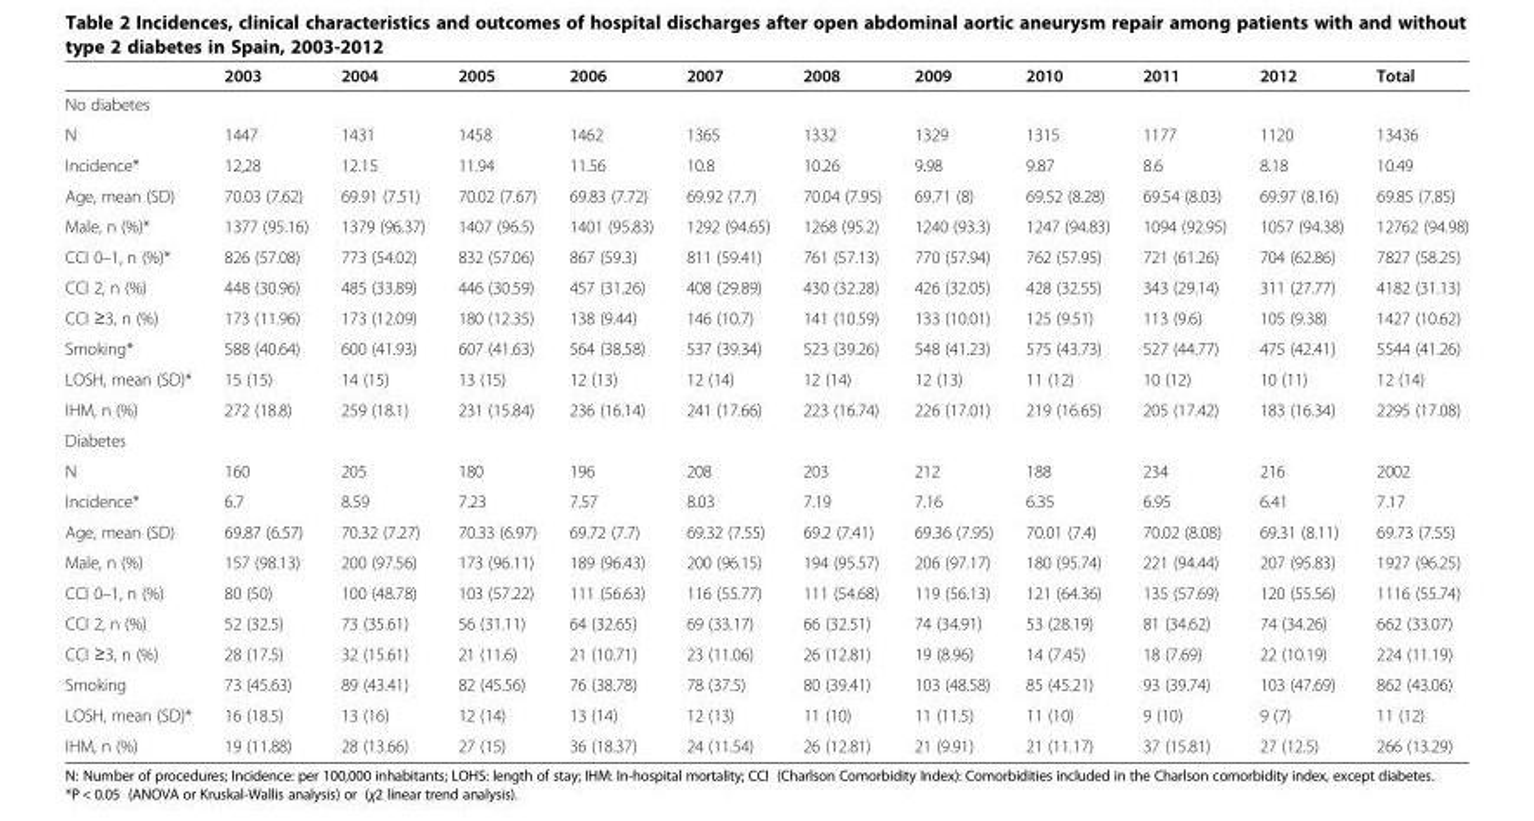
<table><thead><tr><td></td><td>2003</td><td>2004</td><td>2005</td><td>2006</td><td>2007</td><td>2008</td><td>2009</td><td>2010</td><td>2011</td><td>2012</td><td>Total</td></tr></thead><tbody><tr><td colspan="12">No diabetes</td></tr><tr><td>N</td><td>1447</td><td>1431</td><td>1458</td><td>1462</td><td>1365</td><td>1332</td><td>1329</td><td>1315</td><td>1177</td><td>1120</td><td>13436</td></tr><tr><td>Incidence*</td><td>12,28</td><td>12.15</td><td>11.94</td><td>11.56</td><td>10.8</td><td>10.26</td><td>9.98</td><td>9.87</td><td>8.6</td><td>8.18</td><td>10.49</td></tr><tr><td>Age, mean (SD)</td><td>70.03 (7.62)</td><td>69.91 (7.51)</td><td>70.02 (7.67)</td><td>69.83 (7.72)</td><td>69.92 (7.7)</td><td>70.04 (7.95)</td><td>69.71 (8)</td><td>69.52 (8.28)</td><td>69.54 (8.03)</td><td>69.97 (8.16)</td><td>69.85 (7.85)</td></tr><tr><td>Male, n (%)*</td><td>1377 (95.16)</td><td>1379 (96.37)</td><td>1407 (96.5)</td><td>1401 (95.83)</td><td>1292 (94.65)</td><td>1268 (95.2)</td><td>1240 (93.3)</td><td>1247 (94.83)</td><td>1094 (92.95)</td><td>1057 (94.38)</td><td>12762 (94.98)</td></tr><tr><td>CCI 0–1, n (%)*</td><td>826 (57.08)</td><td>773 (54.02)</td><td>832 (57.06)</td><td>867 (59.3)</td><td>811 (59.41)</td><td>761 (57.13)</td><td>770 (57.94)</td><td>762 (57.95)</td><td>721 (61.26)</td><td>704 (62.86)</td><td>7827 (58.25)</td></tr><tr><td>CCI 2, n (%)</td><td>448 (30.96)</td><td>485 (33.89)</td><td>446 (30.59)</td><td>457 (31.26)</td><td>408 (29.89)</td><td>430 (32.28)</td><td>426 (32.05)</td><td>428 (32.55)</td><td>343 (29.14)</td><td>311 (27.77)</td><td>4182 (31.13)</td></tr><tr><td>CCI ≥3, n (%)</td><td>173 (11.96)</td><td>173 (12.09)</td><td>180 (12.35)</td><td>138 (9.44)</td><td>146 (10.7)</td><td>141 (10.59)</td><td>133 (10.01)</td><td>125 (9.51)</td><td>113 (9.6)</td><td>105 (9.38)</td><td>1427 (10.62)</td></tr><tr><td>Smoking*</td><td>588 (40.64)</td><td>600 (41.93)</td><td>607 (41.63)</td><td>564 (38.58)</td><td>537 (39.34)</td><td>523 (39.26)</td><td>548 (41.23)</td><td>575 (43.73)</td><td>527 (44.77)</td><td>475 (42.41)</td><td>5544 (41.26)</td></tr><tr><td>LOSH, mean (SD)*</td><td>15 (15)</td><td>14 (15)</td><td>13 (15)</td><td>12 (13)</td><td>12 (14)</td><td>12 (14)</td><td>12 (13)</td><td>11 (12)</td><td>10 (12)</td><td>10 (11)</td><td>12 (14)</td></tr><tr><td>IHM, n (%)</td><td>272 (18.8)</td><td>259 (18.1)</td><td>231 (15.84)</td><td>236 (16.14)</td><td>241 (17.66)</td><td>223 (16.74)</td><td>226 (17.01)</td><td>219 (16.65)</td><td>205 (17.42)</td><td>183 (16.34)</td><td>2295 (17.08)</td></tr><tr><td colspan="12">Diabetes</td></tr><tr><td>N</td><td>160</td><td>205</td><td>180</td><td>196</td><td>208</td><td>203</td><td>212</td><td>188</td><td>234</td><td>216</td><td>2002</td></tr><tr><td>Incidence*</td><td>6.7</td><td>8.59</td><td>7.23</td><td>7.57</td><td>8.03</td><td>7.19</td><td>7.16</td><td>6.35</td><td>6.95</td><td>6.41</td><td>7.17</td></tr><tr><td>Age, mean (SD)</td><td>69.87 (6.57)</td><td>70.32 (7.27)</td><td>70.33 (6.97)</td><td>69.72 (7.7)</td><td>69.32 (7.55)</td><td>69.2 (7.41)</td><td>69.36 (7.95)</td><td>70.01 (7.4)</td><td>70.02 (8.08)</td><td>69.31 (8.11)</td><td>69.73 (7.55)</td></tr><tr><td>Male, n (%)</td><td>157 (98.13)</td><td>200 (97.56)</td><td>173 (96.11)</td><td>189 (96.43)</td><td>200 (96.15)</td><td>194 (95.57)</td><td>206 (97.17)</td><td>180 (95.74)</td><td>221 (94.44)</td><td>207 (95.83)</td><td>1927 (96.25)</td></tr><tr><td>CCI 0–1, n (%)</td><td>80 (50)</td><td>100 (48.78)</td><td>103 (57.22)</td><td>111 (56.63)</td><td>116 (55.77)</td><td>111 (54.68)</td><td>119 (56.13)</td><td>121 (64.36)</td><td>135 (57.69)</td><td>120 (55.56)</td><td>1116 (55.74)</td></tr><tr><td>CCI 2, n (%)</td><td>52 (32.5)</td><td>73 (35.61)</td><td>56 (31.11)</td><td>64 (32.65)</td><td>69 (33.17)</td><td>66 (32.51)</td><td>74 (34.91)</td><td>53 (28.19)</td><td>81 (34.62)</td><td>74 (34.26)</td><td>662 (33.07)</td></tr><tr><td>CCI ≥3, n (%)</td><td>28 (17.5)</td><td>32 (15.61)</td><td>21 (11.6)</td><td>21 (10.71)</td><td>23 (11.06)</td><td>26 (12.81)</td><td>19 (8.96)</td><td>14 (7.45)</td><td>18 (7.69)</td><td>22 (10.19)</td><td>224 (11.19)</td></tr><tr><td>Smoking</td><td>73 (45.63)</td><td>89 (43.41)</td><td>82 (45.56)</td><td>76 (38.78)</td><td>78 (37.5)</td><td>80 (39.41)</td><td>103 (48.58)</td><td>85 (45.21)</td><td>93 (39.74)</td><td>103 (47.69)</td><td>862 (43.06)</td></tr><tr><td>LOSH, mean (SD)*</td><td>16 (18.5)</td><td>13 (16)</td><td>12 (14)</td><td>13 (14)</td><td>12 (13)</td><td>11 (10)</td><td>11 (11.5)</td><td>11 (10)</td><td>9 (10)</td><td>9 (7)</td><td>11 (12)</td></tr><tr><td>IHM, n (%)</td><td>19 (11.88)</td><td>28 (13.66)</td><td>27 (15)</td><td>36 (18.37)</td><td>24 (11.54)</td><td>26 (12.81)</td><td>21 (9.91)</td><td>21 (11.17)</td><td>37 (15.81)</td><td>27 (12.5)</td><td>266 (13.29)</td></tr></tbody></table>